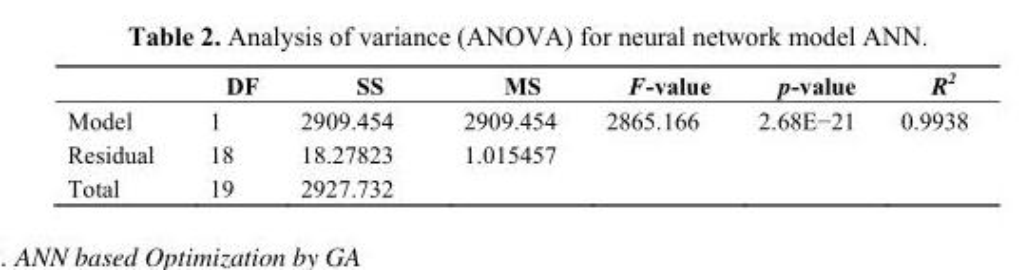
<table><thead><tr><td></td><td>DF</td><td>SS</td><td>MS</td><td>F-value</td><td>p-value</td><td>R<sup>2</sup></td></tr></thead><tbody><tr><td>Model</td><td>1</td><td>2909.454</td><td>2909.454</td><td>2865.166</td><td>2.68E−21</td><td>0.9938</td></tr><tr><td>Residual</td><td>18</td><td>18.27823</td><td>1.015457</td><td></td><td></td><td></td></tr><tr><td>Total</td><td>19</td><td>2927.732</td><td></td><td></td><td></td><td></td></tr></tbody></table>